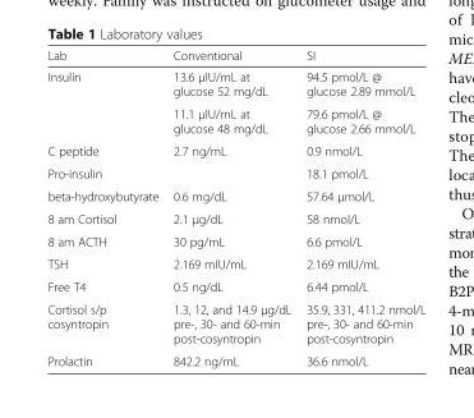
<table><thead><tr><td>Lab</td><td>Conventional</td><td>SI</td></tr></thead><tbody><tr><td rowspan="2">Insulin</td><td>13.6 μIU/mL at glucose 52 mg/dL</td><td>94.5 pmol/L @ glucose 2.89 mmol/L</td></tr><tr><td>11.1 μIU/mL at glucose 48 mg/dL</td><td>79.6 pmol/L @ glucose 2.66 mmol/L</td></tr><tr><td>C peptide</td><td>2.7 ng/mL</td><td>0.9 nmol/L</td></tr><tr><td>Pro-insulin</td><td></td><td>18.1 pmol/L</td></tr><tr><td>beta-hydroxybutyrate</td><td>0.6 mg/dL</td><td>57.64 μmol/L</td></tr><tr><td>8 am Cortisol</td><td>2.1 μg/dL</td><td>58 nmol/L</td></tr><tr><td>8 am ACTH</td><td>30 pg/mL</td><td>6.6 pmol/L</td></tr><tr><td>TSH</td><td>2.169 mIU/mL</td><td>2.169 mIU/mL</td></tr><tr><td>Free T4</td><td>0.5 ng/dL</td><td>6.44 pmol/L</td></tr><tr><td>Cortisol s/p cosyntropin</td><td>1.3, 12, and 14.9 μg/dL pre-, 30- and 60-min post-cosyntropin</td><td>35.9, 331, 411.2 nmol/L pre-, 30- and 60-min post-cosyntropin</td></tr><tr><td>Prolactin</td><td>842.2 ng/mL</td><td>36.6 nmol/L</td></tr></tbody></table>